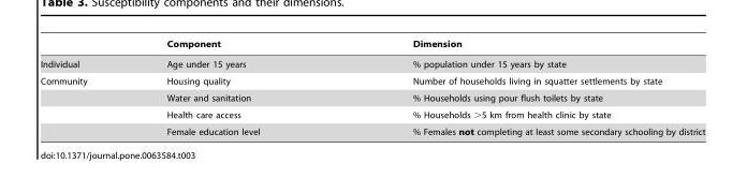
<table><thead><tr><td></td><td>Component</td><td>Dimension</td></tr></thead><tbody><tr><td>Individual</td><td>Age under 15 years</td><td>% population under 15 years by state</td></tr><tr><td rowspan="4">Community</td><td>Housing quality</td><td>Number of households living in squatter settlements by state</td></tr><tr><td>Water and sanitation</td><td>% Households using pour flush toilets by state</td></tr><tr><td>Health care access</td><td>% Households &gt;5 km from health clinic by state</td></tr><tr><td>Female education level</td><td>% Females not completing at least some secondary schooling by district</td></tr></tbody></table>